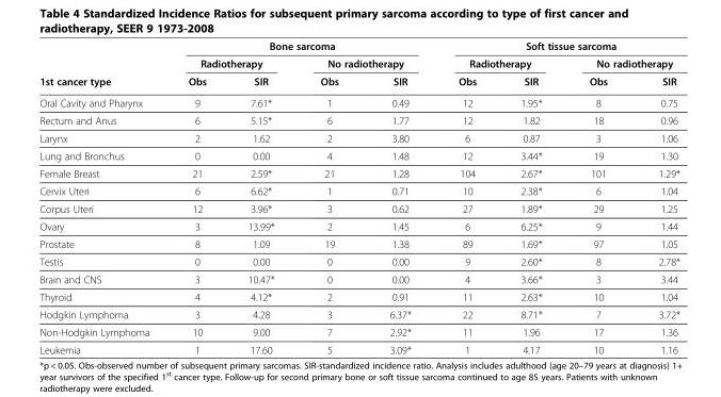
<table><thead><tr><td rowspan="3">1st cancer type</td><td colspan="4">Bone sarcoma</td><td colspan="4">Soft tissue sarcoma</td></tr><tr><td colspan="2">Radiotherapy</td><td colspan="2">No radiotherapy</td><td colspan="2">Radiotherapy</td><td colspan="2">No radiotherapy</td></tr><tr><td>Obs</td><td>SIR</td><td>Obs</td><td>SIR</td><td>Obs</td><td>SIR</td><td>Obs</td><td>SIR</td></tr></thead><tbody><tr><td>Oral Cavity and Pharynx</td><td>9</td><td>7.61*</td><td>1</td><td>0.49</td><td>12</td><td>1.95*</td><td>8</td><td>0.75</td></tr><tr><td>Rectum and Anus</td><td>6</td><td>5.15*</td><td>6</td><td>1.77</td><td>12</td><td>1.82</td><td>18</td><td>0.96</td></tr><tr><td>Larynx</td><td>2</td><td>1.62</td><td>2</td><td>3.80</td><td>6</td><td>0.87</td><td>3</td><td>1.06</td></tr><tr><td>Lung and Bronchus</td><td>0</td><td>0.00</td><td>4</td><td>1.48</td><td>12</td><td>3.44*</td><td>19</td><td>1.30</td></tr><tr><td>Female Breast</td><td>21</td><td>2.59*</td><td>21</td><td>1.28</td><td>104</td><td>2.67*</td><td>101</td><td>1.29*</td></tr><tr><td>Cervix Uteri</td><td>6</td><td>6.62*</td><td>1</td><td>0.71</td><td>10</td><td>2.38*</td><td>6</td><td>1.04</td></tr><tr><td>Corpus Uteri</td><td>12</td><td>3.96*</td><td>3</td><td>0.62</td><td>27</td><td>1.89*</td><td>29</td><td>1.25</td></tr><tr><td>Ovary</td><td>3</td><td>13.99*</td><td>2</td><td>1.45</td><td>6</td><td>6.25*</td><td>9</td><td>1.44</td></tr><tr><td>Prostate</td><td>8</td><td>1.09</td><td>19</td><td>1.38</td><td>89</td><td>1.69*</td><td>97</td><td>1.05</td></tr><tr><td>Testis</td><td>0</td><td>0.00</td><td>0</td><td>0.00</td><td>9</td><td>2.60*</td><td>8</td><td>2.78*</td></tr><tr><td>Brain and CNS</td><td>3</td><td>10.47*</td><td>0</td><td>0.00</td><td>4</td><td>3.66*</td><td>3</td><td>3.44</td></tr><tr><td>Thyroid</td><td>4</td><td>4.12*</td><td>2</td><td>0.91</td><td>11</td><td>2.63*</td><td>10</td><td>1.04</td></tr><tr><td>Hodgkin Lymphoma</td><td>3</td><td>4.28</td><td>3</td><td>6.37*</td><td>22</td><td>8.71*</td><td>7</td><td>3.72*</td></tr><tr><td>Non-Hodgkin Lymphoma</td><td>10</td><td>9.00</td><td>7</td><td>2.92*</td><td>11</td><td>1.96</td><td>17</td><td>1.36</td></tr><tr><td>Leukemia</td><td>1</td><td>17.60</td><td>5</td><td>3.09*</td><td>1</td><td>4.17</td><td>10</td><td>1.16</td></tr></tbody></table>